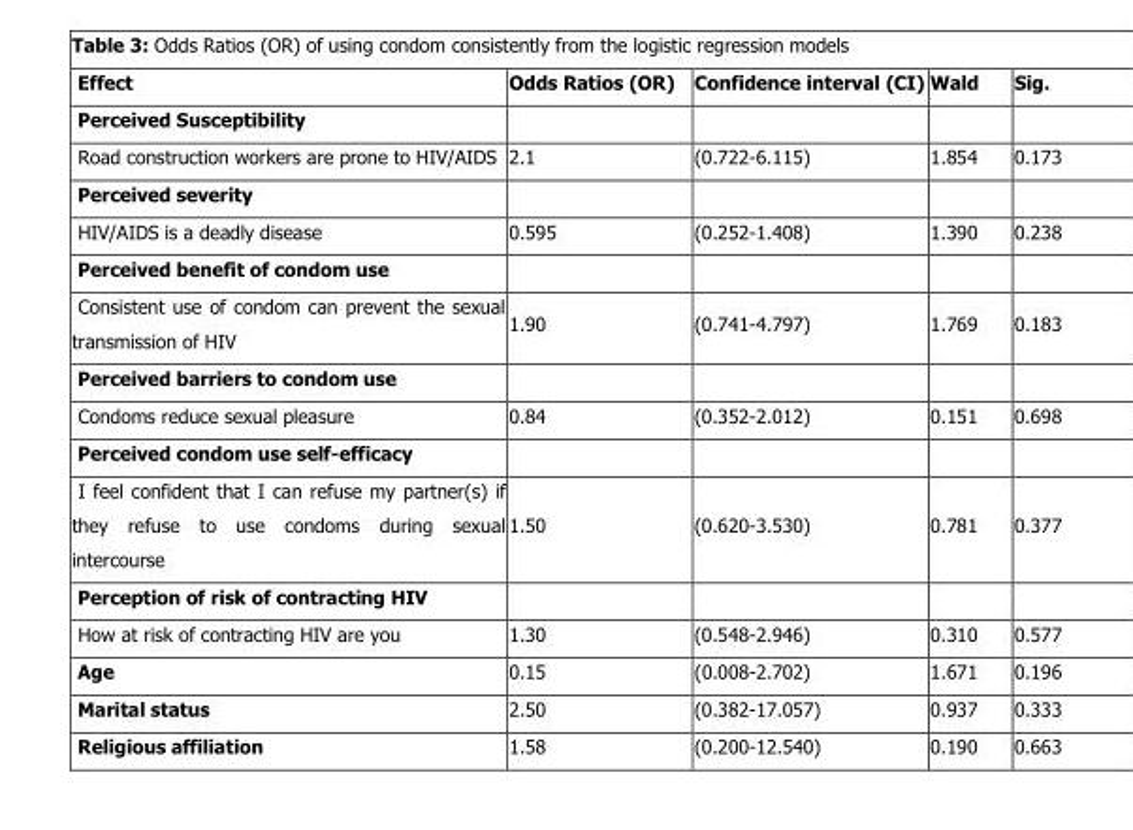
<table><thead><tr><td>Effect</td><td>Odds Ratios (OR)</td><td>Confidence interval (CI)</td><td>Wald</td><td>Sig.</td></tr></thead><tbody><tr><td colspan="5">Perceived Susceptibility</td></tr><tr><td>Road construction workers are prone to HIV/AIDS</td><td>2.1</td><td>(0.722-6.115)</td><td>1.854</td><td>0.173</td></tr><tr><td colspan="5">Perceived severity</td></tr><tr><td>HIV/AIDS is a deadly disease</td><td>0.595</td><td>(0.252-1.408)</td><td>1.390</td><td>0.238</td></tr><tr><td colspan="5">Perceived benefit of condom use</td></tr><tr><td>Consistent use of condom can prevent the sexual transmission of HIV</td><td>1.90</td><td>(0.741-4.797)</td><td>1.769</td><td>0.183</td></tr><tr><td colspan="5">Perceived barriers to condom use</td></tr><tr><td>Condoms reduce sexual pleasure</td><td>0.84</td><td>(0.352-2.012)</td><td>0.151</td><td>0.698</td></tr><tr><td colspan="5">Perceived condom use self-efficacy</td></tr><tr><td>I feel confident that I can refuse my partner(s) if they refuse to use condoms during sexual intercourse</td><td>1.50</td><td>(0.620-3.530)</td><td>0.781</td><td>0.377</td></tr><tr><td colspan="5">Perception of risk of contracting HIV</td></tr><tr><td>How at risk of contracting HIV are you</td><td>1.30</td><td>(0.548-2.946)</td><td>0.310</td><td>0.577</td></tr><tr><td>Age</td><td>0.15</td><td>(0.008-2.702)</td><td>1.671</td><td>0.196</td></tr><tr><td>Marital status</td><td>2.50</td><td>(0.382-17.057)</td><td>0.937</td><td>0.333</td></tr><tr><td>Religious affiliation</td><td>1.58</td><td>(0.200-12.540)</td><td>0.190</td><td>0.663</td></tr></tbody></table>